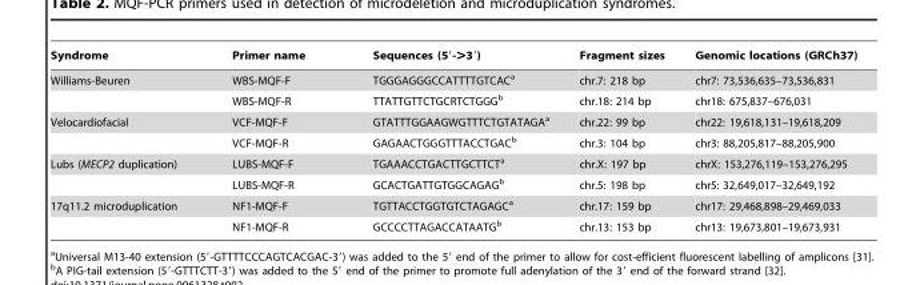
<table><thead><tr><td>Syndrome</td><td>Primer name</td><td>Sequences (5′-&gt;3′)</td><td>Fragment sizes</td><td>Genomic locations (GRCh37)</td></tr></thead><tbody><tr><td rowspan="2">Williams-Beuren</td><td>WBS-MQF-F</td><td>TGGGAGGGCCATTTTGTCAC<sup>a</sup></td><td>chr.7: 218 bp</td><td>chr7: 73,536,635–73,536,831</td></tr><tr><td>WBS-MQF-R</td><td>TTATTGTTCTGCRTCTGGG<sup>b</sup></td><td>chr.18: 214 bp</td><td>chr18: 675,837–676,031</td></tr><tr><td rowspan="2">Velocardiofacial</td><td>VCF-MQF-F</td><td>GTATTTGGAAGWGTTTCTGTATAGA<sup>a</sup></td><td>chr.22: 99 bp</td><td>chr22: 19,618,131–19,618,209</td></tr><tr><td>VCF-MQF-R</td><td>GAGAACTGGGTTTACCTGAC<sup>b</sup></td><td>chr.3: 104 bp</td><td>chr3: 88,205,817–88,205,900</td></tr><tr><td rowspan="2">Lubs (MECP2 duplication)</td><td>LUBS-MQF-F</td><td>TGAAACCTGACTTGCTTCT<sup>a</sup></td><td>chr.X: 197 bp</td><td>chrX: 153,276,119–153,276,295</td></tr><tr><td>LUBS-MQF-R</td><td>GCACTGATTGTGGCAGAG<sup>b</sup></td><td>chr.5: 198 bp</td><td>chr5: 32,649,017–32,649,192</td></tr><tr><td rowspan="2">17q11.2 microduplication</td><td>NF1-MQF-F</td><td>TGTTACCTGGTGTCTAGAGC<sup>a</sup></td><td>chr.17: 159 bp</td><td>chr17: 29,468,898–29,469,033</td></tr><tr><td>NF1-MQF-R</td><td>GCCCCTTAGACCATAATG<sup>b</sup></td><td>chr.13: 153 bp</td><td>chr13: 19,673,801–19,673,931</td></tr></tbody></table>